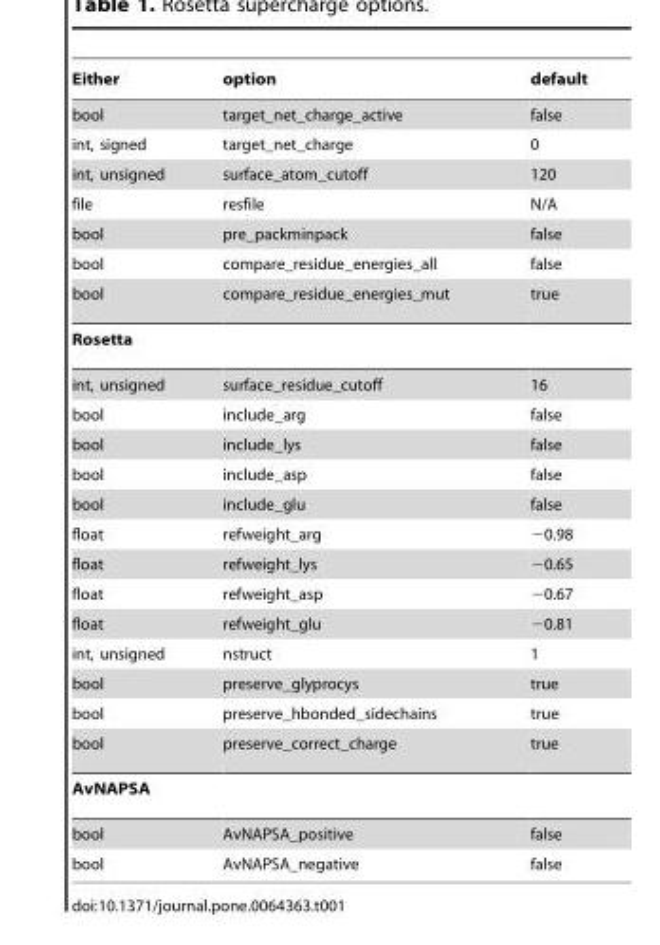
<table><thead><tr><td>Either</td><td>option</td><td>default</td></tr></thead><tbody><tr><td>bool</td><td>target_net_charge_active</td><td>false</td></tr><tr><td>int, signed</td><td>target_net_charge</td><td>0</td></tr><tr><td>int, unsigned</td><td>surface_atom_cutoff</td><td>120</td></tr><tr><td>file</td><td>resfile</td><td>N/A</td></tr><tr><td>bool</td><td>pre_packminpack</td><td>false</td></tr><tr><td>bool</td><td>compare_residue_energies_all</td><td>false</td></tr><tr><td>bool</td><td>compare_residue_energies_mut</td><td>true</td></tr><tr><td colspan="3">Rosetta</td></tr><tr><td>int, unsigned</td><td>surface_residue_cutoff</td><td>16</td></tr><tr><td>bool</td><td>include_arg</td><td>false</td></tr><tr><td>bool</td><td>include_lys</td><td>false</td></tr><tr><td>bool</td><td>include_asp</td><td>false</td></tr><tr><td>bool</td><td>include_glu</td><td>false</td></tr><tr><td>float</td><td>refweight_arg</td><td>−0.98</td></tr><tr><td>float</td><td>refweight_lys</td><td>−0.65</td></tr><tr><td>float</td><td>refweight_asp</td><td>−0.67</td></tr><tr><td>float</td><td>refweight_glu</td><td>−0.81</td></tr><tr><td>int, unsigned</td><td>nstruct</td><td>1</td></tr><tr><td>bool</td><td>preserve_glyprocys</td><td>true</td></tr><tr><td>bool</td><td>preserve_hbonded_sidechains</td><td>true</td></tr><tr><td>bool</td><td>preserve_correct_charge</td><td>true</td></tr><tr><td colspan="3">AvNAPSA</td></tr><tr><td>bool</td><td>AvNAPSA_positive</td><td>false</td></tr><tr><td>bool</td><td>AvNAPSA_negative</td><td>false</td></tr></tbody></table>